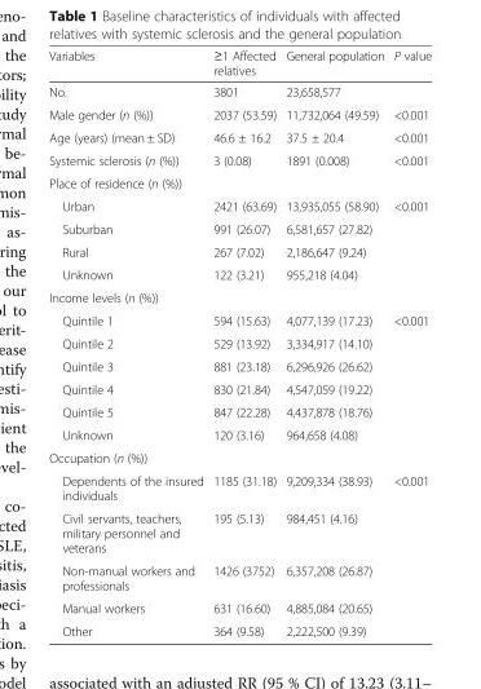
<table><thead><tr><td>Variables</td><td>≥1 Affected relatives</td><td>General population</td><td>P value</td></tr></thead><tbody><tr><td>No.</td><td>3801</td><td>23,658,577</td><td></td></tr><tr><td>Male gender (n (%))</td><td>2037 (53.59)</td><td>11,732,064 (49.59)</td><td>&lt;0.001</td></tr><tr><td>Age (years) (mean ± SD)</td><td>46.6 ± 16.2</td><td>37.5 ± 20.4</td><td>&lt;0.001</td></tr><tr><td>Systemic sclerosis (n (%))</td><td>3 (0.08)</td><td>1891 (0.008)</td><td>&lt;0.001</td></tr><tr><td colspan="4">Place of residence (n (%))</td></tr><tr><td>Urban</td><td>2421 (63.69)</td><td>13,935,055 (58.90)</td><td>&lt;0.001</td></tr><tr><td>Suburban</td><td>991 (26.07)</td><td>6,581,657 (27.82)</td><td></td></tr><tr><td>Rural</td><td>267 (7.02)</td><td>2,186,647 (9.24)</td><td></td></tr><tr><td>Unknown</td><td>122 (3.21)</td><td>955,218 (4.04)</td><td></td></tr><tr><td colspan="4">Income levels (n (%))</td></tr><tr><td>Quintile 1</td><td>594 (15.63)</td><td>4,077,139 (17.23)</td><td>&lt;0.001</td></tr><tr><td>Quintile 2</td><td>529 (13.92)</td><td>3,334,917 (14.10)</td><td></td></tr><tr><td>Quintile 3</td><td>881 (23.18)</td><td>6,296,926 (26.62)</td><td></td></tr><tr><td>Quintile 4</td><td>830 (21.84)</td><td>4,547,059 (19.22)</td><td></td></tr><tr><td>Quintile 5</td><td>847 (22.28)</td><td>4,437,878 (18.76)</td><td></td></tr><tr><td>Unknown</td><td>120 (3.16)</td><td>964,658 (4.08)</td><td></td></tr><tr><td colspan="4">Occupation (n (%))</td></tr><tr><td>Dependents of the insured individuals</td><td>1185 (31.18)</td><td>9,209,334 (38.93)</td><td>&lt;0.001</td></tr><tr><td>Civil servants, teachers, military personnel and veterans</td><td>195 (5.13)</td><td>984,451 (4.16)</td><td></td></tr><tr><td>Non-manual workers and professionals</td><td>1426 (3752)</td><td>6,357,208 (26.87)</td><td></td></tr><tr><td>Manual workers</td><td>631 (16.60)</td><td>4,885,084 (20.65)</td><td></td></tr><tr><td>Other</td><td>364 (9.58)</td><td>2,222,500 (9.39)</td><td></td></tr></tbody></table>